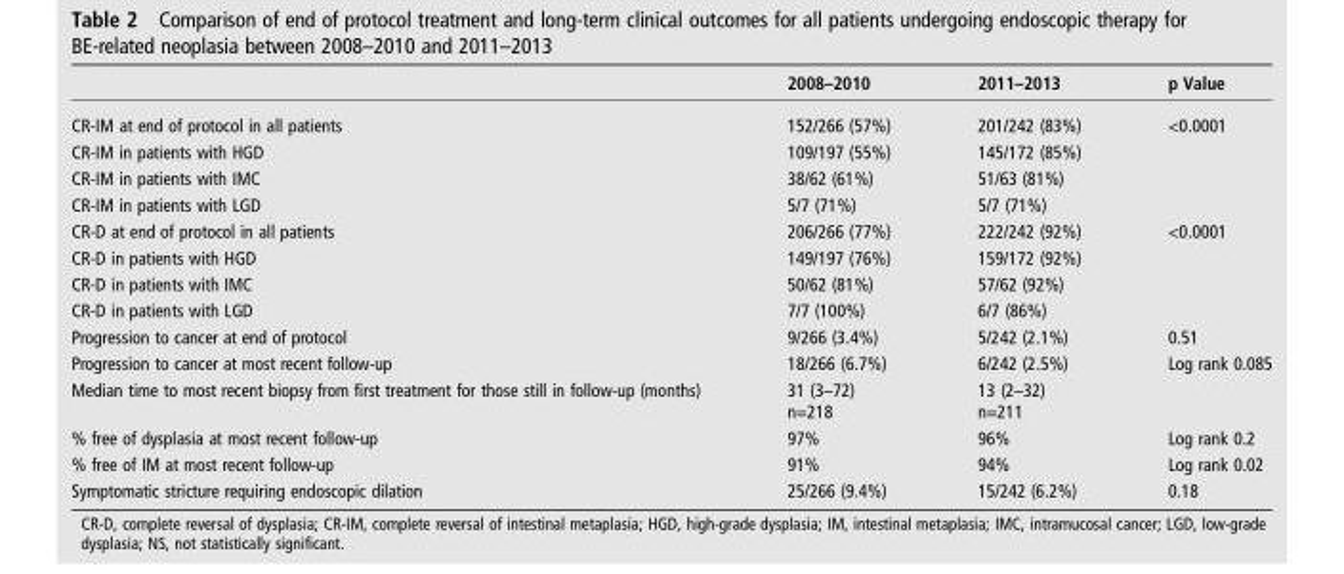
<table><thead><tr><td></td><td>2008–2010</td><td>2011–2013</td><td>p Value</td></tr></thead><tbody><tr><td>CR-IM at end of protocol in all patients</td><td>152/266 (57%)</td><td>201/242 (83%)</td><td>&lt;0.0001</td></tr><tr><td>CR-IM in patients with HGD</td><td>109/197 (55%)</td><td>145/172 (85%)</td><td></td></tr><tr><td>CR-IM in patients with IMC</td><td>38/62 (61%)</td><td>51/63 (81%)</td><td></td></tr><tr><td>CR-IM in patients with LGD</td><td>5/7 (71%)</td><td>5/7 (71%)</td><td></td></tr><tr><td>CR-D at end of protocol in all patients</td><td>206/266 (77%)</td><td>222/242 (92%)</td><td>&lt;0.0001</td></tr><tr><td>CR-D in patients with HGD</td><td>149/197 (76%)</td><td>159/172 (92%)</td><td></td></tr><tr><td>CR-D in patients with IMC</td><td>50/62 (81%)</td><td>57/62 (92%)</td><td></td></tr><tr><td>CR-D in patients with LGD</td><td>7/7 (100%)</td><td>6/7 (86%)</td><td></td></tr><tr><td>Progression to cancer at end of protocol</td><td>9/266 (3.4%)</td><td>5/242 (2.1%)</td><td>0.51</td></tr><tr><td>Progression to cancer at most recent follow-up</td><td>18/266 (6.7%)</td><td>6/242 (2.5%)</td><td>Log rank 0.085</td></tr><tr><td>Median time to most recent biopsy from first treatment for those still in follow-up (months)</td><td>31 (3–72) n=218</td><td>13 (2–32) n=211</td><td></td></tr><tr><td>% free of dysplasia at most recent follow-up</td><td>97%</td><td>96%</td><td>Log rank 0.2</td></tr><tr><td>% free of IM at most recent follow-up</td><td>91%</td><td>94%</td><td>Log rank 0.02</td></tr><tr><td>Symptomatic stricture requiring endoscopic dilation</td><td>25/266 (9.4%)</td><td>15/242 (6.2%)</td><td>0.18</td></tr></tbody></table>